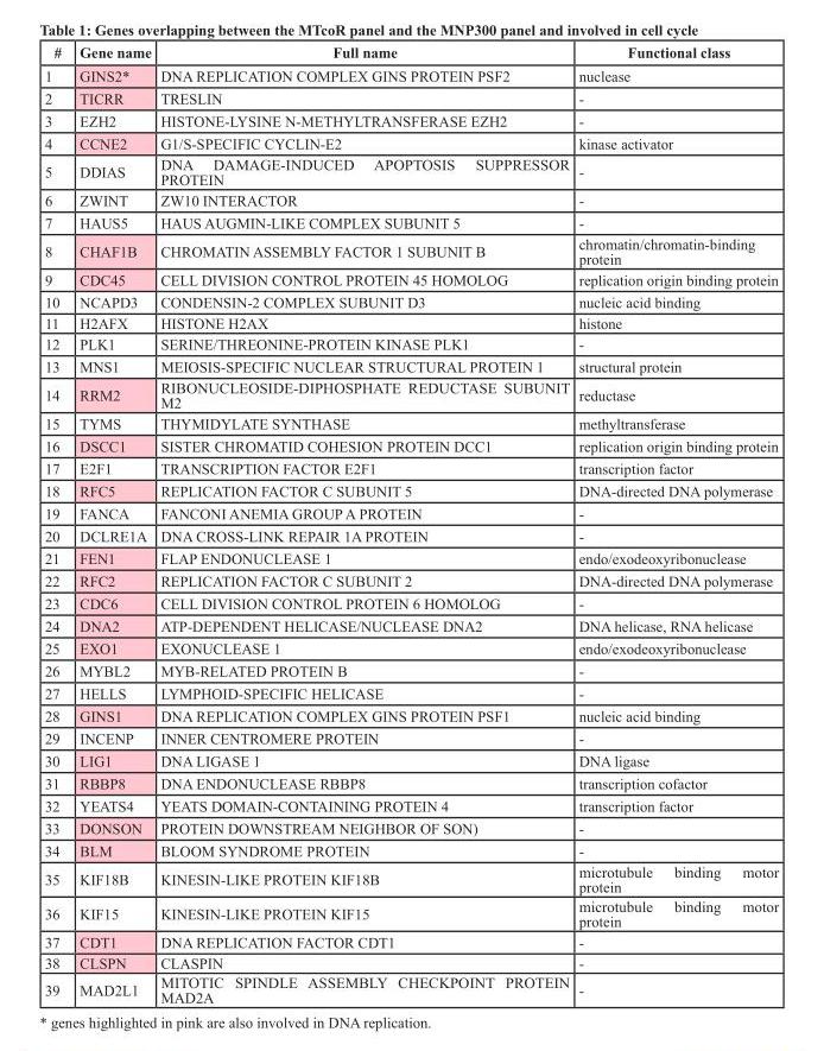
<table><thead><tr><td>#</td><td>Gene name</td><td>Full name</td><td>Functional class</td></tr></thead><tbody><tr><td>1</td><td>GINS2*</td><td>DNA REPLICATION COMPLEX GINS PROTEIN PSF2</td><td>nuclease</td></tr><tr><td>2</td><td>TICRR</td><td>TRESLIN</td><td>-</td></tr><tr><td>3</td><td>EZH2</td><td>HISTONE-LYSINE N-METHYLTRANSFERASE EZH2</td><td>-</td></tr><tr><td>4</td><td>CCNE2</td><td>G1/S-SPECIFIC CYCLIN-E2</td><td>kinase activator</td></tr><tr><td>5</td><td>DDIAS</td><td>DNA DAMAGE-INDUCED APOPTOSIS SUPPRESSOR PROTEIN</td><td>-</td></tr><tr><td>6</td><td>ZWINT</td><td>ZW10 INTERACTOR</td><td>-</td></tr><tr><td>7</td><td>HAUS5</td><td>HAUS AUGMIN-LIKE COMPLEX SUBUNIT 5</td><td>-</td></tr><tr><td>8</td><td>CHAF1B</td><td>CHROMATIN ASSEMBLY FACTOR 1 SUBUNIT B</td><td>chromatin/chromatin-binding protein</td></tr><tr><td>9</td><td>CDC45</td><td>CELL DIVISION CONTROL PROTEIN 45 HOMOLOG</td><td>replication origin binding protein</td></tr><tr><td>10</td><td>NCAPD3</td><td>CONDENSIN-2 COMPLEX SUBUNIT D3</td><td>nucleic acid binding</td></tr><tr><td>11</td><td>H2AFX</td><td>HISTONE H2AX</td><td>histone</td></tr><tr><td>12</td><td>PLK1</td><td>SERINE/THREONINE-PROTEIN KINASE PLK1</td><td>-</td></tr><tr><td>13</td><td>MNS1</td><td>MEIOSIS-SPECIFIC NUCLEAR STRUCTURAL PROTEIN 1</td><td>structural protein</td></tr><tr><td>14</td><td>RRM2</td><td>RIBONUCLEOSIDE-DIPHOSPHATE REDUCTASE SUBUNIT M2</td><td>reductase</td></tr><tr><td>15</td><td>TYMS</td><td>THYMIDYLATE SYNTHASE</td><td>methyltransferase</td></tr><tr><td>16</td><td>DSCC1</td><td>SISTER CHROMATID COHESION PROTEIN DCC1</td><td>replication origin binding protein</td></tr><tr><td>17</td><td>E2F1</td><td>TRANSCRIPTION FACTOR E2F1</td><td>transcription factor</td></tr><tr><td>18</td><td>RFC5</td><td>REPLICATION FACTOR C SUBUNIT 5</td><td>DNA-directed DNA polymerase</td></tr><tr><td>19</td><td>FANCA</td><td>FANCONI ANEMIA GROUP A PROTEIN</td><td>-</td></tr><tr><td>20</td><td>DCLRE1A</td><td>DNA CROSS-LINK REPAIR 1A PROTEIN</td><td>-</td></tr><tr><td>21</td><td>FEN1</td><td>FLAP ENDONUCLEASE 1</td><td>endo/exodeoxyribonuclease</td></tr><tr><td>22</td><td>RFC2</td><td>REPLICATION FACTOR C SUBUNIT 2</td><td>DNA-directed DNA polymerase</td></tr><tr><td>23</td><td>CDC6</td><td>CELL DIVISION CONTROL PROTEIN 6 HOMOLOG</td><td>-</td></tr><tr><td>24</td><td>DNA2</td><td>ATP-DEPENDENT HELICASE/NUCLEASE DNA2</td><td>DNA helicase, RNA helicase</td></tr><tr><td>25</td><td>EXO1</td><td>EXONUCLEASE 1</td><td>endo/exodeoxyribonuclease</td></tr><tr><td>26</td><td>MYBL2</td><td>MYB-RELATED PROTEIN B</td><td>-</td></tr><tr><td>27</td><td>HELLS</td><td>LYMPHOID-SPECIFIC HELICASE</td><td>-</td></tr><tr><td>28</td><td>GINS1</td><td>DNA REPLICATION COMPLEX GINS PROTEIN PSF1</td><td>nucleic acid binding</td></tr><tr><td>29</td><td>INCENP</td><td>INNER CENTROMERE PROTEIN</td><td>-</td></tr><tr><td>30</td><td>LIG1</td><td>DNA LIGASE 1</td><td>DNA ligase</td></tr><tr><td>31</td><td>RBBP8</td><td>DNA ENDONUCLEASE RBBP8</td><td>transcription cofactor</td></tr><tr><td>32</td><td>YEATS4</td><td>YEATS DOMAIN-CONTAINING PROTEIN 4</td><td>transcription factor</td></tr><tr><td>33</td><td>DONSON</td><td>PROTEIN DOWNSTREAM NEIGHBOR OF SON)</td><td>-</td></tr><tr><td>34</td><td>BLM</td><td>BLOOM SYNDROME PROTEIN</td><td>-</td></tr><tr><td>35</td><td>KIF18B</td><td>KINESIN-LIKE PROTEIN KIF18B</td><td>microtubule binding motor protein</td></tr><tr><td>36</td><td>KIF15</td><td>KINESIN-LIKE PROTEIN KIF15</td><td>microtubule binding motor protein</td></tr><tr><td>37</td><td>CDT1</td><td>DNA REPLICATION FACTOR CDT1</td><td>-</td></tr><tr><td>38</td><td>CLSPN</td><td>CLASPIN</td><td>-</td></tr><tr><td>39</td><td>MAD2L1</td><td>MITOTIC SPINDLE ASSEMBLY CHECKPOINT PROTEIN MAD2A</td><td>-</td></tr></tbody></table>